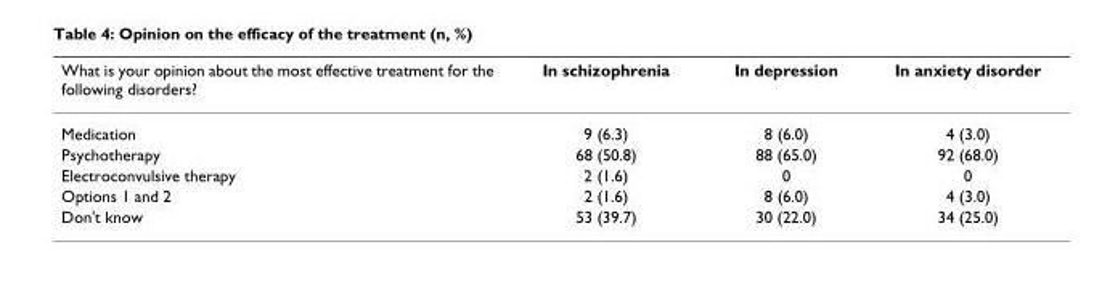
<table><thead><tr><td>What is your opinion about the most effective treatment for the following disorders?</td><td>In schizophrenia</td><td>In depression</td><td>In anxiety disorder</td></tr></thead><tbody><tr><td>Medication</td><td>9 (6.3)</td><td>8 (6.0)</td><td>4 (3.0)</td></tr><tr><td>Psychotherapy</td><td>68 (50.8)</td><td>88 (65.0)</td><td>92 (68.0)</td></tr><tr><td>Electroconvulsive therapy</td><td>2 (1.6)</td><td>0</td><td>0</td></tr><tr><td>Options 1 and 2</td><td>2 (1.6)</td><td>8 (6.0)</td><td>4 (3.0)</td></tr><tr><td>Don&#x27;t know</td><td>53 (39.7)</td><td>30 (22.0)</td><td>34 (25.0)</td></tr></tbody></table>